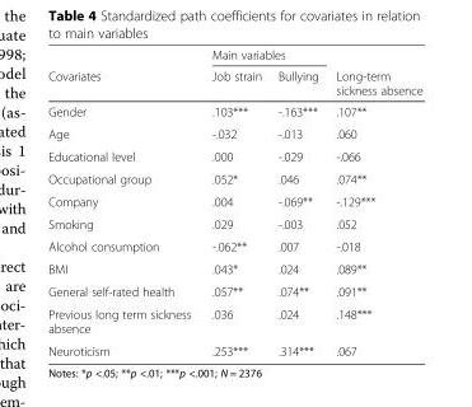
<table><thead><tr><td rowspan="2">Covariates</td><td colspan="2">Main variables</td><td rowspan="2">Long-term sickness absence</td></tr><tr><td>Job strain</td><td>Bullying</td></tr></thead><tbody><tr><td>Gender</td><td>.103***</td><td>-.163***</td><td>.107**</td></tr><tr><td>Age</td><td>-.032</td><td>-.013</td><td>.060</td></tr><tr><td>Educational level</td><td>.000</td><td>-.029</td><td>-.066</td></tr><tr><td>Occupational group</td><td>.052*</td><td>.046</td><td>.074**</td></tr><tr><td>Company</td><td>.004</td><td>-.069**</td><td>-.129***</td></tr><tr><td>Smoking</td><td>.029</td><td>-.003</td><td>.052</td></tr><tr><td>Alcohol consumption</td><td>-.062**</td><td>.007</td><td>-.018</td></tr><tr><td>BMI</td><td>.043*</td><td>.024</td><td>.089**</td></tr><tr><td>General self-rated health</td><td>.057**</td><td>.074**</td><td>.091**</td></tr><tr><td>Previous long term sickness absence</td><td>.036</td><td>.024</td><td>.148***</td></tr><tr><td>Neuroticism</td><td>.253***</td><td>.314***</td><td>.067</td></tr></tbody></table>